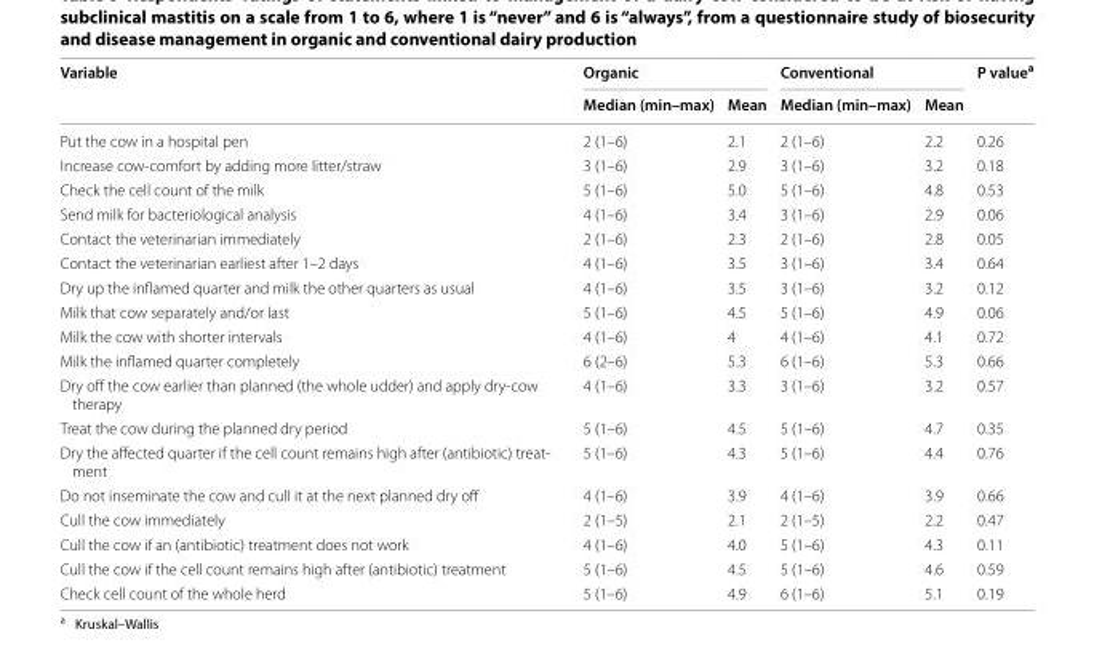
<table><thead><tr><td rowspan="2">Variable</td><td colspan="2">Organic</td><td colspan="2">Conventional</td><td rowspan="2">P value<sup>a</sup></td></tr><tr><td>Median (min–max)</td><td>Mean</td><td>Median (min–max)</td><td>Mean</td></tr></thead><tbody><tr><td>Put the cow in a hospital pen</td><td>2 (1–6)</td><td>2.1</td><td>2 (1–6)</td><td>2.2</td><td>0.26</td></tr><tr><td>Increase cow-comfort by adding more litter/straw</td><td>3 (1–6)</td><td>2.9</td><td>3 (1–6)</td><td>3.2</td><td>0.18</td></tr><tr><td>Check the cell count of the milk</td><td>5 (1–6)</td><td>5.0</td><td>5 (1–6)</td><td>4.8</td><td>0.53</td></tr><tr><td>Send milk for bacteriological analysis</td><td>4 (1–6)</td><td>3.4</td><td>3 (1–6)</td><td>2.9</td><td>0.06</td></tr><tr><td>Contact the veterinarian immediately</td><td>2 (1–6)</td><td>2.3</td><td>2 (1–6)</td><td>2.8</td><td>0.05</td></tr><tr><td>Contact the veterinarian earliest after 1–2 days</td><td>4 (1–6)</td><td>3.5</td><td>3 (1–6)</td><td>3.4</td><td>0.64</td></tr><tr><td>Dry up the inflamed quarter and milk the other quarters as usual</td><td>4 (1–6)</td><td>3.5</td><td>3 (1–6)</td><td>3.2</td><td>0.12</td></tr><tr><td>Milk that cow separately and/or last</td><td>5 (1–6)</td><td>4.5</td><td>5 (1–6)</td><td>4.9</td><td>0.06</td></tr><tr><td>Milk the cow with shorter intervals</td><td>4 (1–6)</td><td>4</td><td>4 (1–6)</td><td>4.1</td><td>0.72</td></tr><tr><td>Milk the inflamed quarter completely</td><td>6 (2–6)</td><td>5.3</td><td>6 (1–6)</td><td>5.3</td><td>0.66</td></tr><tr><td>Dry off the cow earlier than planned (the whole udder) and apply dry-cow therapy</td><td>4 (1–6)</td><td>3.3</td><td>3 (1–6)</td><td>3.2</td><td>0.57</td></tr><tr><td>Treat the cow during the planned dry period</td><td>5 (1–6)</td><td>4.5</td><td>5 (1–6)</td><td>4.7</td><td>0.35</td></tr><tr><td>Dry the affected quarter if the cell count remains high after (antibiotic) treat- ment</td><td>5 (1–6)</td><td>4.3</td><td>5 (1–6)</td><td>4.4</td><td>0.76</td></tr><tr><td>Do not inseminate the cow and cull it at the next planned dry off</td><td>4 (1–6)</td><td>3.9</td><td>4 (1–6)</td><td>3.9</td><td>0.66</td></tr><tr><td>Cull the cow immediately</td><td>2 (1–5)</td><td>2.1</td><td>2 (1–5)</td><td>2.2</td><td>0.47</td></tr><tr><td>Cull the cow if an (antibiotic) treatment does not work</td><td>4 (1–6)</td><td>4.0</td><td>5 (1–6)</td><td>4.3</td><td>0.11</td></tr><tr><td>Cull the cow if the cell count remains high after (antibiotic) treatment</td><td>5 (1–6)</td><td>4.5</td><td>5 (1–6)</td><td>4.6</td><td>0.59</td></tr><tr><td>Check cell count of the whole herd</td><td>5 (1–6)</td><td>4.9</td><td>6 (1–6)</td><td>5.1</td><td>0.19</td></tr></tbody></table>